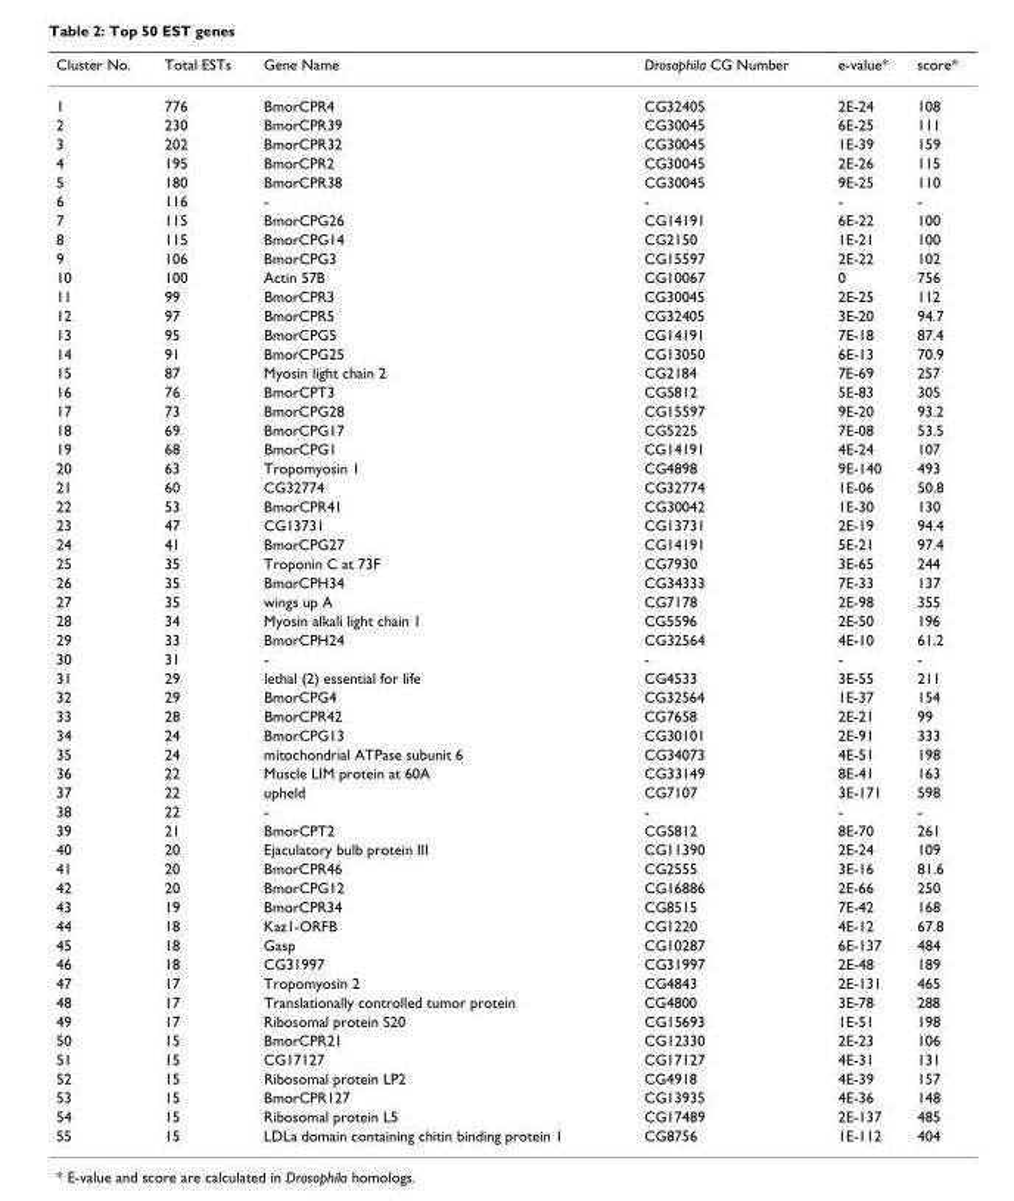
<table><thead><tr><td>Cluster No.</td><td>Total ESTs</td><td>Gene Name</td><td>Drosophila CG Number</td><td>e-value*</td><td>score*</td></tr></thead><tbody><tr><td>1</td><td>776</td><td>BmorCPR4</td><td>CG32405</td><td>2E-24</td><td>108</td></tr><tr><td>2</td><td>230</td><td>BmorCPR39</td><td>CG30045</td><td>6E-25</td><td>111</td></tr><tr><td>3</td><td>202</td><td>BmorCPR32</td><td>CG30045</td><td>1E-39</td><td>159</td></tr><tr><td>4</td><td>195</td><td>BmorCPR2</td><td>CG30045</td><td>2E-26</td><td>115</td></tr><tr><td>5</td><td>180</td><td>BmorCPR38</td><td>CG30045</td><td>9E-25</td><td>110</td></tr><tr><td>6</td><td>116</td><td>-</td><td>-</td><td>-</td><td>-</td></tr><tr><td>7</td><td>115</td><td>BmorCPG26</td><td>CG14191</td><td>6E-22</td><td>100</td></tr><tr><td>8</td><td>115</td><td>BmorCPG14</td><td>CG2150</td><td>1E-21</td><td>100</td></tr><tr><td>9</td><td>106</td><td>BmorCPG3</td><td>CG15597</td><td>2E-22</td><td>102</td></tr><tr><td>10</td><td>100</td><td>Actin 57B</td><td>CG10067</td><td>0</td><td>756</td></tr><tr><td>11</td><td>99</td><td>BmorCPR3</td><td>CG30045</td><td>2E-25</td><td>112</td></tr><tr><td>12</td><td>97</td><td>BmorCPR5</td><td>CG32405</td><td>3E-20</td><td>94.7</td></tr><tr><td>13</td><td>95</td><td>BmorCPG5</td><td>CG14191</td><td>7E-18</td><td>87.4</td></tr><tr><td>14</td><td>91</td><td>BmorCPG25</td><td>CG13050</td><td>6E-13</td><td>70.9</td></tr><tr><td>15</td><td>87</td><td>Myosin light chain 2</td><td>CG2184</td><td>7E-69</td><td>257</td></tr><tr><td>16</td><td>76</td><td>BmorCPT3</td><td>CG5812</td><td>5E-83</td><td>305</td></tr><tr><td>17</td><td>73</td><td>BmorCPG28</td><td>CG15597</td><td>9E-20</td><td>93.2</td></tr><tr><td>18</td><td>69</td><td>BmorCPG17</td><td>CG5225</td><td>7E-08</td><td>53.5</td></tr><tr><td>19</td><td>68</td><td>BmorCPG1</td><td>CG14191</td><td>4E-24</td><td>107</td></tr><tr><td>20</td><td>63</td><td>Tropomyosin 1</td><td>CG4898</td><td>9E-140</td><td>493</td></tr><tr><td>21</td><td>60</td><td>CG32774</td><td>CG32774</td><td>1E-06</td><td>50.8</td></tr><tr><td>22</td><td>53</td><td>BmorCPR41</td><td>CG30042</td><td>1E-30</td><td>130</td></tr><tr><td>23</td><td>47</td><td>CG13731</td><td>CG13731</td><td>2E-19</td><td>94.4</td></tr><tr><td>24</td><td>41</td><td>BmorCPG27</td><td>CG14191</td><td>5E-21</td><td>97.4</td></tr><tr><td>25</td><td>35</td><td>Troponin C at 73F</td><td>CG7930</td><td>3E-65</td><td>244</td></tr><tr><td>26</td><td>35</td><td>BmorCPH34</td><td>CG34333</td><td>7E-33</td><td>137</td></tr><tr><td>27</td><td>35</td><td>wings up A</td><td>CG7178</td><td>2E-98</td><td>355</td></tr><tr><td>28</td><td>34</td><td>Myosin alkali light chain 1</td><td>CG5596</td><td>2E-50</td><td>196</td></tr><tr><td>29</td><td>33</td><td>BmorCPH24</td><td>CG32564</td><td>4E-10</td><td>61.2</td></tr><tr><td>30</td><td>31</td><td>-</td><td>-</td><td>-</td><td>-</td></tr><tr><td>31</td><td>29</td><td>lethal (2) essential for life</td><td>CG4533</td><td>3E-55</td><td>211</td></tr><tr><td>32</td><td>29</td><td>BmorCPG4</td><td>CG32564</td><td>1E-37</td><td>154</td></tr><tr><td>33</td><td>28</td><td>BmorCPR42</td><td>CG7658</td><td>2E-21</td><td>99</td></tr><tr><td>34</td><td>24</td><td>BmorCPG13</td><td>CG30101</td><td>2E-91</td><td>333</td></tr><tr><td>35</td><td>24</td><td>mitochondrial ATPase subunit 6</td><td>CG34073</td><td>4E-51</td><td>198</td></tr><tr><td>36</td><td>22</td><td>Muscle LIM protein at 60A</td><td>CG33149</td><td>8E-41</td><td>163</td></tr><tr><td>37</td><td>22</td><td>upheld</td><td>CG7107</td><td>3E-171</td><td>598</td></tr><tr><td>38</td><td>22</td><td>-</td><td>-</td><td>-</td><td>-</td></tr><tr><td>39</td><td>21</td><td>BmorCPT2</td><td>CG5812</td><td>8E-70</td><td>261</td></tr><tr><td>40</td><td>20</td><td>Ejaculatory bulb protein III</td><td>CG11390</td><td>2E-24</td><td>109</td></tr><tr><td>41</td><td>20</td><td>BmorCPR46</td><td>CG2555</td><td>3E-16</td><td>81.6</td></tr><tr><td>42</td><td>20</td><td>BmorCPG12</td><td>CG16886</td><td>2E-66</td><td>250</td></tr><tr><td>43</td><td>19</td><td>BmorCPR34</td><td>CG8515</td><td>7E-42</td><td>168</td></tr><tr><td>44</td><td>18</td><td>Kaz1-ORFB</td><td>CG1220</td><td>4E-12</td><td>67.8</td></tr><tr><td>45</td><td>18</td><td>Gasp</td><td>CG10287</td><td>6E-137</td><td>484</td></tr><tr><td>46</td><td>18</td><td>CG31997</td><td>CG31997</td><td>2E-48</td><td>189</td></tr><tr><td>47</td><td>17</td><td>Tropomyosin 2</td><td>CG4843</td><td>2E-131</td><td>465</td></tr><tr><td>48</td><td>17</td><td>Translationally controlled tumor protein</td><td>CG4800</td><td>3E-78</td><td>288</td></tr><tr><td>49</td><td>17</td><td>Ribosomal protein S20</td><td>CG15693</td><td>1E-51</td><td>198</td></tr><tr><td>50</td><td>15</td><td>BmorCPR21</td><td>CG12330</td><td>2E-23</td><td>106</td></tr><tr><td>51</td><td>15</td><td>CG17127</td><td>CG17127</td><td>4E-31</td><td>131</td></tr><tr><td>52</td><td>15</td><td>Ribosomal protein LP2</td><td>CG4918</td><td>4E-39</td><td>157</td></tr><tr><td>53</td><td>15</td><td>BmorCPR127</td><td>CG13935</td><td>4E-36</td><td>148</td></tr><tr><td>54</td><td>15</td><td>Ribosomal protein L5</td><td>CG17489</td><td>2E-137</td><td>485</td></tr><tr><td>55</td><td>15</td><td>LDLa domain containing chitin binding protein 1</td><td>CG8756</td><td>1E-112</td><td>404</td></tr></tbody></table>